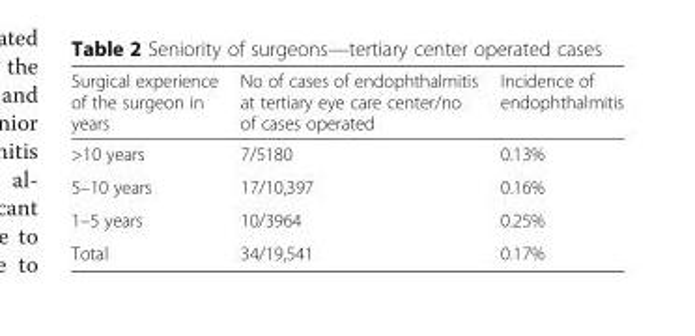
<table><thead><tr><td>Surgical experience of the surgeon in years</td><td>No of cases of endophthalmitis at tertiary eye care center/no of cases operated</td><td>Incidence of endophthalmitis</td></tr></thead><tbody><tr><td>&gt;10 years</td><td>7/5180</td><td>0.13%</td></tr><tr><td>5–10 years</td><td>17/10,397</td><td>0.16%</td></tr><tr><td>1–5 years</td><td>10/3964</td><td>0.25%</td></tr><tr><td>Total</td><td>34/19,541</td><td>0.17%</td></tr></tbody></table>